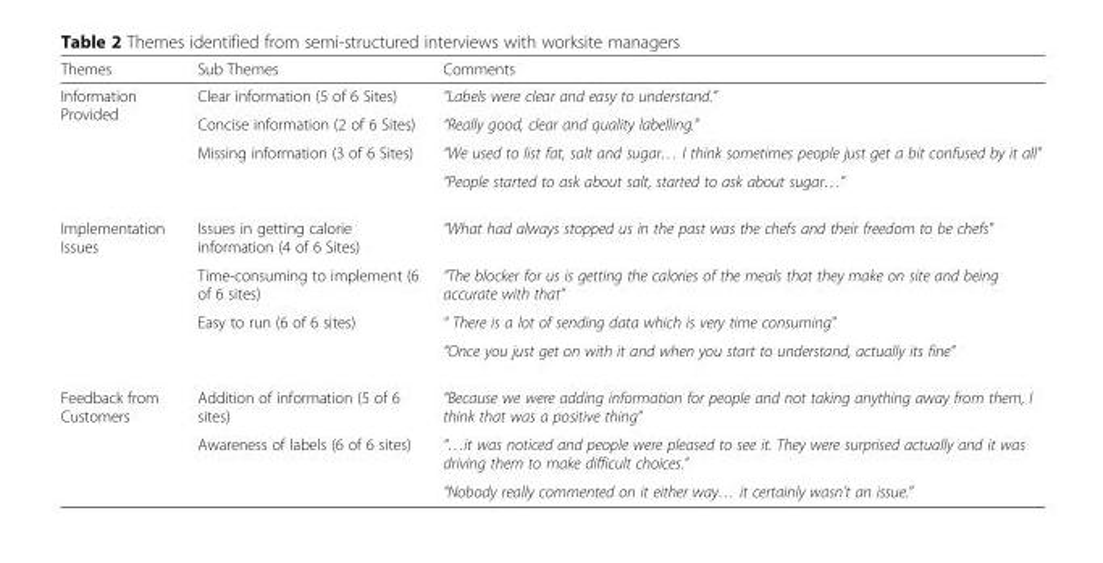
<table><thead><tr><td>Themes</td><td>Sub Themes</td><td>Comments</td></tr></thead><tbody><tr><td rowspan="4">Information Provided</td><td>Clear information (5 of 6 Sites)</td><td>“Labels were clear and easy to understand.”</td></tr><tr><td>Concise information (2 of 6 Sites)</td><td>“Really good, clear and quality labelling.”</td></tr><tr><td>Missing information (3 of 6 Sites)</td><td>“We used to list fat, salt and sugar… I think sometimes people just get a bit confused by it all”</td></tr><tr><td></td><td>“People started to ask about salt, started to ask about sugar…”</td></tr><tr><td rowspan="4">Implementation Issues</td><td>Issues in getting calorie information (4 of 6 Sites)</td><td>“What had always stopped us in the past was the chefs and their freedom to be chefs”</td></tr><tr><td>Time-consuming to implement (6 of 6 sites)</td><td>“The blocker for us is getting the calories of the meals that they make on site and being accurate with that”</td></tr><tr><td>Easy to run (6 of 6 sites)</td><td>“ There is a lot of sending data which is very time consuming”</td></tr><tr><td></td><td>“Once you just get on with it and when you start to understand, actually its fine”</td></tr><tr><td rowspan="3">Feedback from Customers</td><td>Addition of information (5 of 6 sites)</td><td>“Because we were adding information for people and not taking anything away from them, I think that was a positive thing”</td></tr><tr><td>Awareness of labels (6 of 6 sites)</td><td>“…it was noticed and people were pleased to see it. They were surprised actually and it was driving them to make difficult choices.”</td></tr><tr><td></td><td>“Nobody really commented on it either way… it certainly wasn’t an issue.”</td></tr></tbody></table>